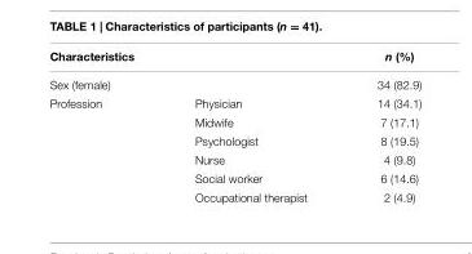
<table><thead><tr><td rowspan="2" colspan="2">Characteristics Sex (female)</td><td rowspan="3">n (%) 34 (82.9) 14 (34.1)</td></tr><tr></tr><tr><td>Profession</td><td>Physician</td></tr></thead><tbody><tr><td></td><td>Midwife</td><td>7 (17.1)</td></tr><tr><td></td><td>Psychologist</td><td>8 (19.5)</td></tr><tr><td></td><td>Nurse</td><td>4 (9.8)</td></tr><tr><td></td><td>Social worker</td><td>6 (14.6)</td></tr><tr><td></td><td>Occupational therapist</td><td>2 (4.9)</td></tr></tbody></table>